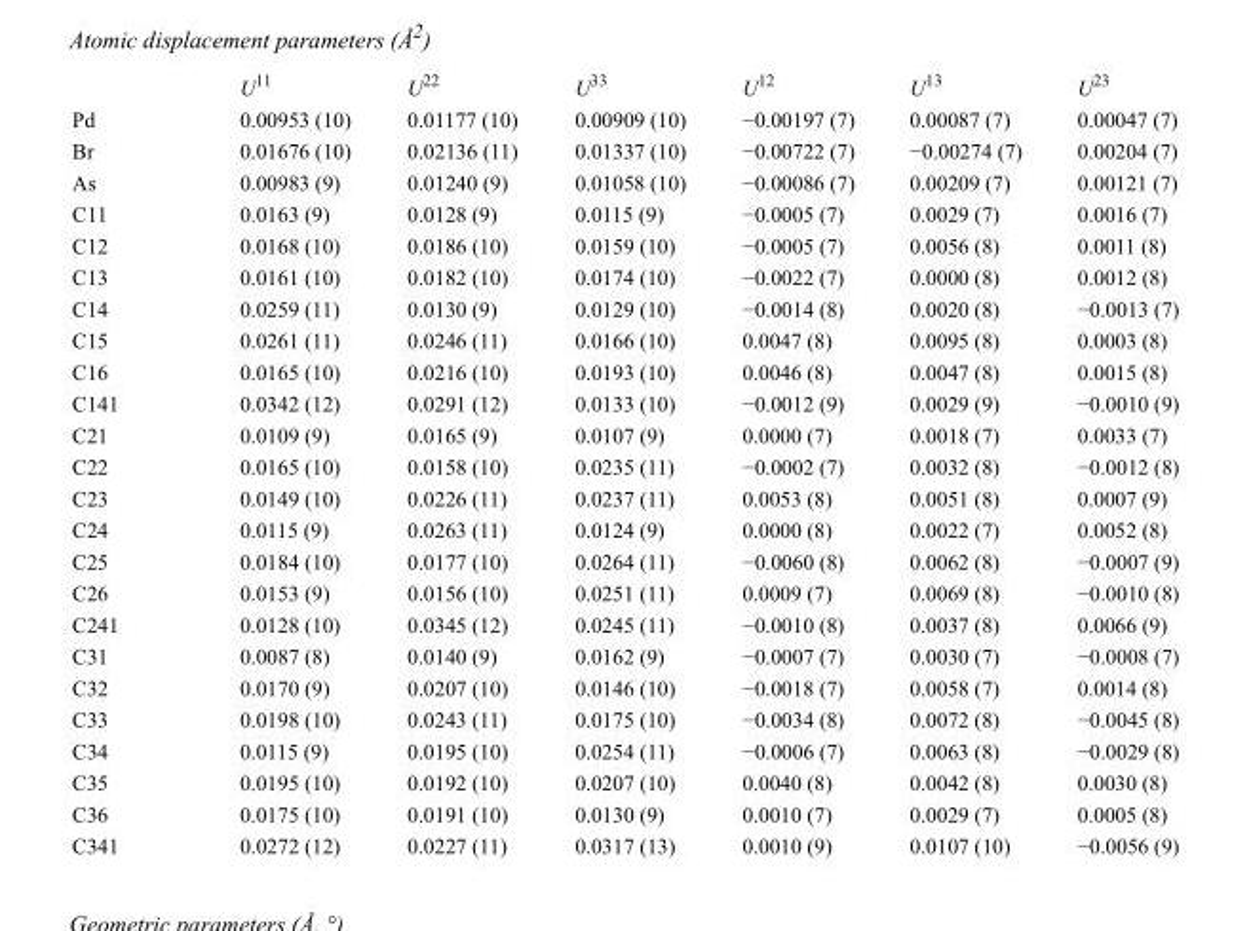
<table><thead><tr><td></td><td>U<sup>11</sup></td><td>U<sup>22</sup></td><td>U<sup>33</sup></td><td>U<sup>12</sup></td><td>U<sup>13</sup></td><td>U<sup>23</sup></td></tr></thead><tbody><tr><td>Pd</td><td>0.00953 (10)</td><td>0.01177 (10)</td><td>0.00909 (10)</td><td>−0.00197 (7)</td><td>0.00087 (7)</td><td>0.00047 (7)</td></tr><tr><td>Br</td><td>0.01676 (10)</td><td>0.02136 (11)</td><td>0.01337 (10)</td><td>−0.00722 (7)</td><td>−0.00274 (7)</td><td>0.00204 (7)</td></tr><tr><td>As</td><td>0.00983 (9)</td><td>0.01240 (9)</td><td>0.01058 (10)</td><td>−0.00086 (7)</td><td>0.00209 (7)</td><td>0.00121 (7)</td></tr><tr><td>C11</td><td>0.0163 (9)</td><td>0.0128 (9)</td><td>0.0115 (9)</td><td>−0.0005 (7)</td><td>0.0029 (7)</td><td>0.0016 (7)</td></tr><tr><td>C12</td><td>0.0168 (10)</td><td>0.0186 (10)</td><td>0.0159 (10)</td><td>−0.0005 (7)</td><td>0.0056 (8)</td><td>0.0011 (8)</td></tr><tr><td>C13</td><td>0.0161 (10)</td><td>0.0182 (10)</td><td>0.0174 (10)</td><td>−0.0022 (7)</td><td>0.0000 (8)</td><td>0.0012 (8)</td></tr><tr><td>C14</td><td>0.0259 (11)</td><td>0.0130 (9)</td><td>0.0129 (10)</td><td>−0.0014 (8)</td><td>0.0020 (8)</td><td>−0.0013 (7)</td></tr><tr><td>C15</td><td>0.0261 (11)</td><td>0.0246 (11)</td><td>0.0166 (10)</td><td>0.0047 (8)</td><td>0.0095 (8)</td><td>0.0003 (8)</td></tr><tr><td>C16</td><td>0.0165 (10)</td><td>0.0216 (10)</td><td>0.0193 (10)</td><td>0.0046 (8)</td><td>0.0047 (8)</td><td>0.0015 (8)</td></tr><tr><td>C141</td><td>0.0342 (12)</td><td>0.0291 (12)</td><td>0.0133 (10)</td><td>−0.0012 (9)</td><td>0.0029 (9)</td><td>−0.0010 (9)</td></tr><tr><td>C21</td><td>0.0109 (9)</td><td>0.0165 (9)</td><td>0.0107 (9)</td><td>0.0000 (7)</td><td>0.0018 (7)</td><td>0.0033 (7)</td></tr><tr><td>C22</td><td>0.0165 (10)</td><td>0.0158 (10)</td><td>0.0235 (11)</td><td>−0.0002 (7)</td><td>0.0032 (8)</td><td>−0.0012 (8)</td></tr><tr><td>C23</td><td>0.0149 (10)</td><td>0.0226 (11)</td><td>0.0237 (11)</td><td>0.0053 (8)</td><td>0.0051 (8)</td><td>0.0007 (9)</td></tr><tr><td>C24</td><td>0.0115 (9)</td><td>0.0263 (11)</td><td>0.0124 (9)</td><td>0.0000 (8)</td><td>0.0022 (7)</td><td>0.0052 (8)</td></tr><tr><td>C25</td><td>0.0184 (10)</td><td>0.0177 (10)</td><td>0.0264 (11)</td><td>−0.0060 (8)</td><td>0.0062 (8)</td><td>−0.0007 (9)</td></tr><tr><td>C26</td><td>0.0153 (9)</td><td>0.0156 (10)</td><td>0.0251 (11)</td><td>0.0009 (7)</td><td>0.0069 (8)</td><td>−0.0010 (8)</td></tr><tr><td>C241</td><td>0.0128 (10)</td><td>0.0345 (12)</td><td>0.0245 (11)</td><td>−0.0010 (8)</td><td>0.0037 (8)</td><td>0.0066 (9)</td></tr><tr><td>C31</td><td>0.0087 (8)</td><td>0.0140 (9)</td><td>0.0162 (9)</td><td>−0.0007 (7)</td><td>0.0030 (7)</td><td>−0.0008 (7)</td></tr><tr><td>C32</td><td>0.0170 (9)</td><td>0.0207 (10)</td><td>0.0146 (10)</td><td>−0.0018 (7)</td><td>0.0058 (7)</td><td>0.0014 (8)</td></tr><tr><td>C33</td><td>0.0198 (10)</td><td>0.0243 (11)</td><td>0.0175 (10)</td><td>−0.0034 (8)</td><td>0.0072 (8)</td><td>−0.0045 (8)</td></tr><tr><td>C34</td><td>0.0115 (9)</td><td>0.0195 (10)</td><td>0.0254 (11)</td><td>−0.0006 (7)</td><td>0.0063 (8)</td><td>−0.0029 (8)</td></tr><tr><td>C35</td><td>0.0195 (10)</td><td>0.0192 (10)</td><td>0.0207 (10)</td><td>0.0040 (8)</td><td>0.0042 (8)</td><td>0.0030 (8)</td></tr><tr><td>C36</td><td>0.0175 (10)</td><td>0.0191 (10)</td><td>0.0130 (9)</td><td>0.0010 (7)</td><td>0.0029 (7)</td><td>0.0005 (8)</td></tr><tr><td>C341</td><td>0.0272 (12)</td><td>0.0227 (11)</td><td>0.0317 (13)</td><td>0.0010 (9)</td><td>0.0107 (10)</td><td>−0.0056 (9)</td></tr></tbody></table>